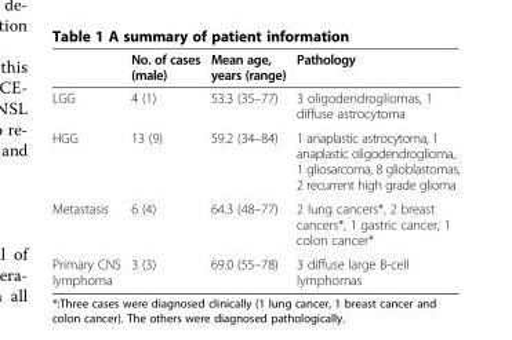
<table><thead><tr><td></td><td>No. of cases (male)</td><td>Mean age, years (range)</td><td>Pathology</td></tr></thead><tbody><tr><td>LGG</td><td>4 (1)</td><td>53.3 (35–77)</td><td>3 oligodendrogliomas, 1 diffuse astrocytoma</td></tr><tr><td>HGG</td><td>13 (9)</td><td>59.2 (34–84)</td><td>1 anaplastic astrocytoma, 1 anaplastic oligodendroglioma, 1 gliosarcoma, 8 glioblastomas, 2 recurrent high grade glioma</td></tr><tr><td>Metastasis</td><td>6 (4)</td><td>64.3 (48–77)</td><td>2 lung cancers*, 2 breast cancers*, 1 gastric cancer, 1 colon cancer*</td></tr><tr><td>Primary CNS lymphoma</td><td>3 (3)</td><td>69.0 (55–78)</td><td>3 diffuse large B-cell lymphomas</td></tr></tbody></table>